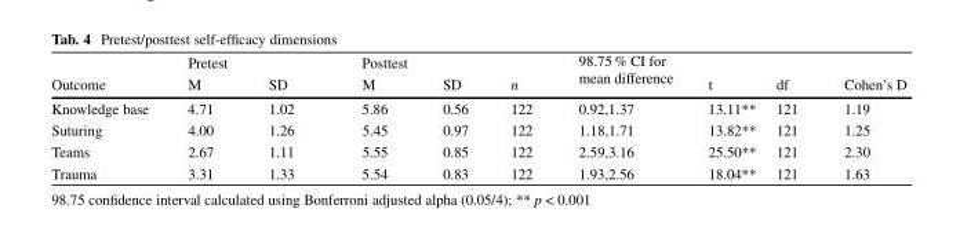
<table><thead><tr><td rowspan="2">Outcome</td><td colspan="2">Pretest</td><td colspan="2">Posttest</td><td rowspan="2">n</td><td rowspan="2">98.75 % CI for mean difference</td><td rowspan="2">t</td><td rowspan="2">df</td><td rowspan="2">Cohen’s D</td></tr><tr><td>M</td><td>SD</td><td>M</td><td>SD</td></tr></thead><tbody><tr><td>Knowledge base</td><td>4.71</td><td>1.02</td><td>5.86</td><td>0.56</td><td>122</td><td>0.92,1.37</td><td>13.11**</td><td>121</td><td>1.19</td></tr><tr><td>Suturing</td><td>4.00</td><td>1.26</td><td>5.45</td><td>0.97</td><td>122</td><td>1.18,1.71</td><td>13.82**</td><td>121</td><td>1.25</td></tr><tr><td>Teams</td><td>2.67</td><td>1.11</td><td>5.55</td><td>0.85</td><td>122</td><td>2.59,3.16</td><td>25.50**</td><td>121</td><td>2.30</td></tr><tr><td>Trauma</td><td>3.31</td><td>1.33</td><td>5.54</td><td>0.83</td><td>122</td><td>1.93,2.56</td><td>18.04**</td><td>121</td><td>1.63</td></tr></tbody></table>